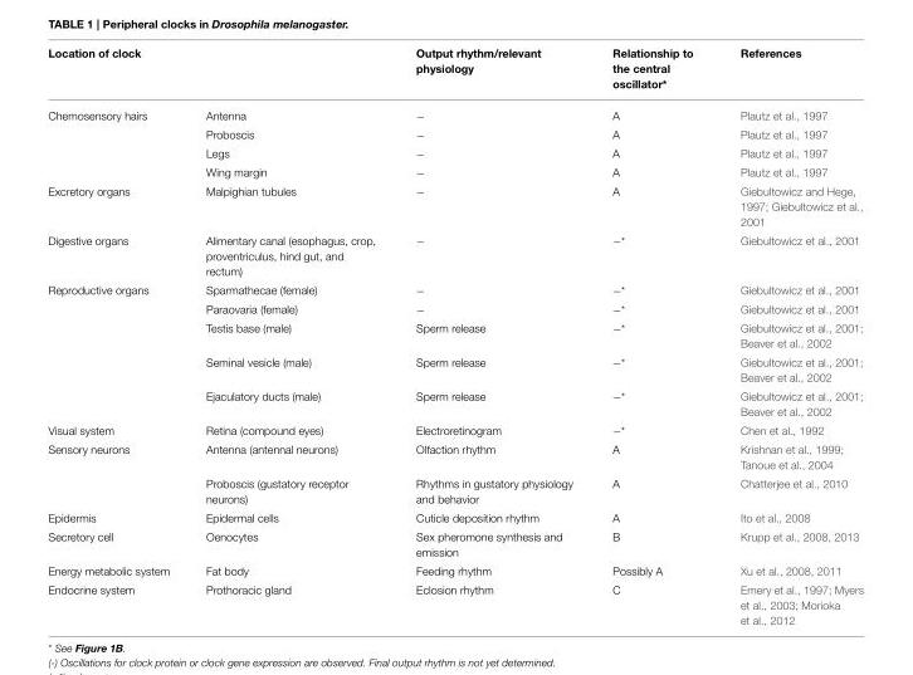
<table><thead><tr><td colspan="2">Location of clock</td><td rowspan="2">Output rhythm/relevant physiology −</td><td rowspan="2">Relationship to the central oscillator* A</td><td rowspan="2">References Plautz et al., 1997</td></tr><tr><td>Chemosensory hairs</td><td>Antenna</td></tr></thead><tbody><tr><td></td><td>Proboscis</td><td>−</td><td>A</td><td>Plautz et al., 1997</td></tr><tr><td></td><td>Legs</td><td>−</td><td>A</td><td>Plautz et al., 1997</td></tr><tr><td></td><td>Wing margin</td><td>−</td><td>A</td><td>Plautz et al., 1997</td></tr><tr><td>Excretory organs</td><td>Malpighian tubules</td><td>−</td><td>A</td><td>Giebultowicz and Hege, 1997; Giebultowicz et al., 2001</td></tr><tr><td>Digestive organs</td><td>Alimentary canal (esophagus, crop, proventriculus, hind gut, and rectum)</td><td>−</td><td>−*</td><td>Giebultowicz et al., 2001</td></tr><tr><td rowspan="5">Reproductive organs</td><td>Sparmathecae (female)</td><td>−</td><td>−*</td><td>Giebultowicz et al., 2001</td></tr><tr><td>Paraovaria (female)</td><td>−</td><td>−*</td><td>Giebultowicz et al., 2001</td></tr><tr><td>Testis base (male)</td><td>Sperm release</td><td>−*</td><td>Giebultowicz et al., 2001; Beaver et al., 2002</td></tr><tr><td>Seminal vesicle (male)</td><td>Sperm release</td><td>−*</td><td>Giebultowicz et al., 2001; Beaver et al., 2002</td></tr><tr><td>Ejaculatory ducts (male)</td><td>Sperm release</td><td>−*</td><td>Giebultowicz et al., 2001; Beaver et al., 2002</td></tr><tr><td>Visual system</td><td>Retina (compound eyes)</td><td>Electroretinogram</td><td>−*</td><td>Chen et al., 1992</td></tr><tr><td rowspan="2">Sensory neurons</td><td>Antenna (antennal neurons)</td><td>Olfaction rhythm</td><td>A</td><td>Krishnan et al., 1999; Tanoue et al., 2004</td></tr><tr><td>Proboscis (gustatory receptor neurons)</td><td>Rhythms in gustatory physiology and behavior</td><td>A</td><td>Chatterjee et al., 2010</td></tr><tr><td>Epidermis</td><td>Epidermal cells</td><td>Cuticle deposition rhythm</td><td>A</td><td>Ito et al., 2008</td></tr><tr><td>Secretory cell</td><td>Oenocytes</td><td>Sex pheromone synthesis and emission</td><td>B</td><td>Krupp et al., 2008, 2013</td></tr><tr><td>Energy metabolic system</td><td>Fat body</td><td>Feeding rhythm</td><td>Possibly A</td><td>Xu et al., 2008, 2011</td></tr><tr><td>Endocrine system</td><td>Prothoracic gland</td><td>Eclosion rhythm</td><td>C</td><td>Emery et al., 1997; Myers et al., 2003; Morioka et al., 2012</td></tr></tbody></table>